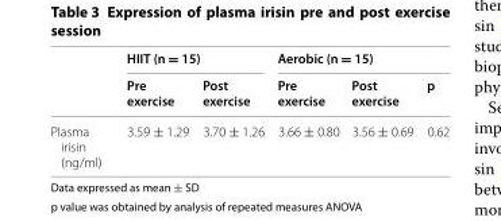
<table><thead><tr><td rowspan="2"></td><td colspan="2">HIIT (n = 15)</td><td colspan="3">Aerobic (n = 15)</td></tr><tr><td>Pre exercise</td><td>Post exercise</td><td>Pre exercise</td><td>Post exercise</td><td>p</td></tr></thead><tbody><tr><td>Plasma irisin (ng/ml)</td><td>3.59 ± 1.29</td><td>3.70 ± 1.26</td><td>3.66 ± 0.80</td><td>3.56 ± 0.69</td><td>0.62</td></tr></tbody></table>